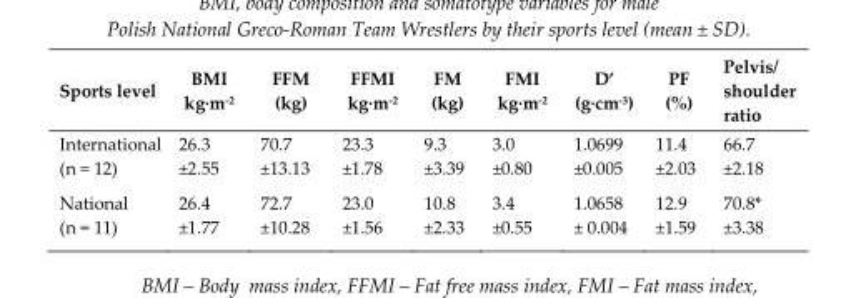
<table><thead><tr><td>Sports level</td><td>BMI kg·m<sup>-2</sup></td><td>FFM (kg)</td><td>FFMI kg·m<sup>-2</sup></td><td>FM (kg)</td><td>FMI kg·m<sup>-2</sup></td><td>D’ (g·cm<sup>-3</sup>)</td><td>PF (%)</td><td>Pelvis/ shoulder ratio</td></tr></thead><tbody><tr><td>International (n = 12)</td><td>26.3 ±2.55</td><td>70.7 ±13.13</td><td>23.3 ±1.78</td><td>9.3 ±3.39</td><td>3.0 ±0.80</td><td>1.0699 ±0.005</td><td>11.4 ±2.03</td><td>66.7 ±2.18</td></tr><tr><td>National (n = 11)</td><td>26.4 ±1.77</td><td>72.7 ±10.28</td><td>23.0 ±1.56</td><td>10.8 ±2.33</td><td>3.4 ±0.55</td><td>1.0658 ± 0.004</td><td>12.9 ±1.59</td><td>70.8* ±3.38</td></tr></tbody></table>